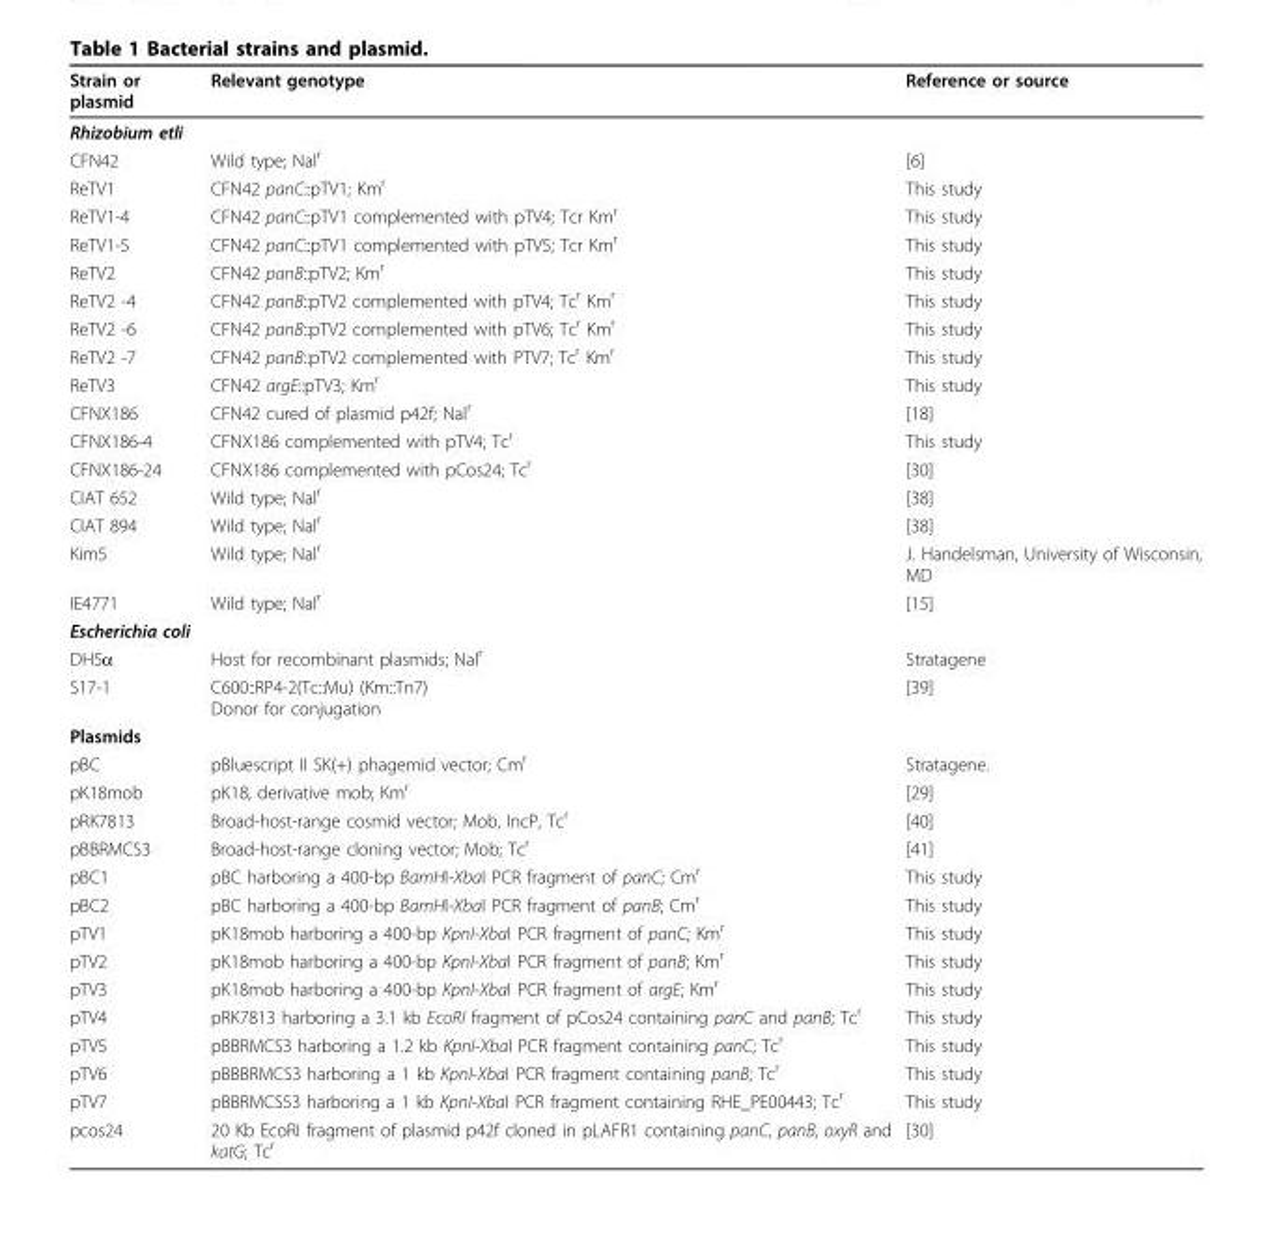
<table><thead><tr><td>Strain or plasmid</td><td>Relevant genotype</td><td>Reference or source</td></tr></thead><tbody><tr><td colspan="3">Rhizobium etli</td></tr><tr><td>CFN42</td><td>Wild type; Nal<sup>r</sup></td><td>[6]</td></tr><tr><td>ReTV1</td><td>CFN42 panC::pTV1; Km<sup>r</sup></td><td>This study</td></tr><tr><td>ReTV1-4</td><td>CFN42 panC::pTV1 complemented with pTV4; Tcr Km<sup>r</sup></td><td>This study</td></tr><tr><td>ReTV1-5</td><td>CFN42 panC::pTV1 complemented with pTV5; Tcr Km<sup>r</sup></td><td>This study</td></tr><tr><td>ReTV2</td><td>CFN42 panB::pTV2; Km<sup>r</sup></td><td>This study</td></tr><tr><td>ReTV2 -4</td><td>CFN42 panB::pTV2 complemented with pTV4; Tc<sup>r</sup> Km<sup>r</sup></td><td>This study</td></tr><tr><td>ReTV2 -6</td><td>CFN42 panB::pTV2 complemented with pTV6; Tc<sup>r</sup> Km<sup>r</sup></td><td>This study</td></tr><tr><td>ReTV2 -7</td><td>CFN42 panB::pTV2 complemented with PTV7; Tc<sup>r</sup> Km<sup>r</sup></td><td>This study</td></tr><tr><td>ReTV3</td><td>CFN42 argE::pTV3; Km<sup>r</sup></td><td>This study</td></tr><tr><td>CFNX186</td><td>CFN42 cured of plasmid p42f; Nal<sup>r</sup></td><td>[18]</td></tr><tr><td>CFNX186-4</td><td>CFNX186 complemented with pTV4; Tc<sup>r</sup></td><td>This study</td></tr><tr><td>CFNX186-24</td><td>CFNX186 complemented with pCos24; Tc<sup>r</sup></td><td>[30]</td></tr><tr><td>CIAT 652</td><td>Wild type; Nal<sup>r</sup></td><td>[38]</td></tr><tr><td>CIAT 894</td><td>Wild type; Nal<sup>r</sup></td><td>[38]</td></tr><tr><td>Kim5</td><td>Wild type; Nal<sup>r</sup></td><td>J. Handelsman, University of Wisconsin, MD</td></tr><tr><td>IE4771</td><td>Wild type; Nal<sup>r</sup></td><td>[15]</td></tr><tr><td colspan="3">Escherichia coli</td></tr><tr><td>DH5α</td><td>Host for recombinant plasmids; Nal<sup>r</sup></td><td>Stratagene</td></tr><tr><td>S17-1</td><td>C600::RP4-2(Tc::Mu) (Km::Tn7) Donor for conjugation</td><td>[39]</td></tr><tr><td colspan="3">Plasmids</td></tr><tr><td>pBC</td><td>pBluescript II SK(+) phagemid vector; Cm<sup>r</sup></td><td>Stratagene.</td></tr><tr><td>pK18mob</td><td>pK18, derivative mob; Km<sup>r</sup></td><td>[29]</td></tr><tr><td>pRK7813</td><td>Broad-host-range cosmid vector; Mob, IncP, Tc<sup>r</sup></td><td>[40]</td></tr><tr><td>pBBRMCS3</td><td>Broad-host-range cloning vector; Mob; Tc<sup>r</sup></td><td>[41]</td></tr><tr><td>pBC1</td><td>pBC harboring a 400-bp BamHI-XbaI PCR fragment of panC; Cm<sup>r</sup></td><td>This study</td></tr><tr><td>pBC2</td><td>pBC harboring a 400-bp BamHI-XbaI PCR fragment of panB; Cm<sup>r</sup></td><td>This study</td></tr><tr><td>pTV1</td><td>pK18mob harboring a 400-bp KpnI-XbaI PCR fragment of panC; Km<sup>r</sup></td><td>This study</td></tr><tr><td>pTV2</td><td>pK18mob harboring a 400-bp KpnI-XbaI PCR fragment of panB; Km<sup>r</sup></td><td>This study</td></tr><tr><td>pTV3</td><td>pK18mob harboring a 400-bp KpnI-XbaI PCR fragment of argE; Km<sup>r</sup></td><td>This study</td></tr><tr><td>pTV4</td><td>pRK7813 harboring a 3.1 kb EcoRI fragment of pCos24 containing panC and panB; Tc<sup>r</sup></td><td>This study</td></tr><tr><td>pTV5</td><td>pBBRMCS3 harboring a 1.2 kb KpnI-XbaI PCR fragment containing panC; Tc<sup>r</sup></td><td>This study</td></tr><tr><td>pTV6</td><td>pBBBRMCS3 harboring a 1 kb KpnI-XbaI PCR fragment containing panB; Tc<sup>r</sup></td><td>This study</td></tr><tr><td>pTV7</td><td>pBBRMCS53 harboring a 1 kb KpnI-XbaI PCR fragment containing RHE_PE00443; Tc<sup>r</sup></td><td>This study</td></tr><tr><td>pcos24</td><td>20 Kb EcoRI fragment of plasmid p42f cloned in pLAFR1 containing panC, panB, oxyR and katG; Tc<sup>r</sup></td><td>[30]</td></tr></tbody></table>